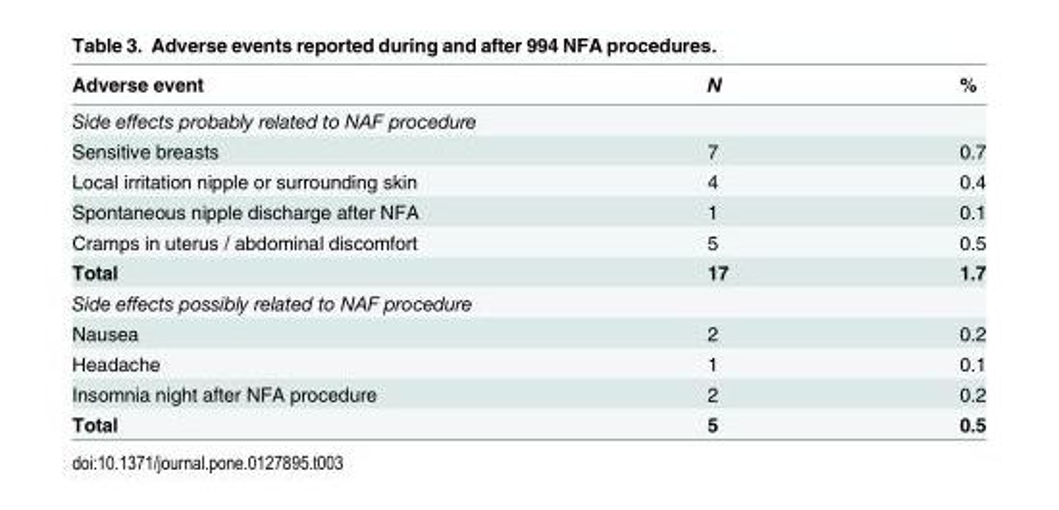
<table><thead><tr><td>Adverse event</td><td>N</td><td>%</td></tr></thead><tbody><tr><td colspan="3">Side effects probably related to NAF procedure</td></tr><tr><td>Sensitive breasts</td><td>7</td><td>0.7</td></tr><tr><td>Local irritation nipple or surrounding skin</td><td>4</td><td>0.4</td></tr><tr><td>Spontaneous nipple discharge after NFA</td><td>1</td><td>0.1</td></tr><tr><td>Cramps in uterus / abdominal discomfort</td><td>5</td><td>0.5</td></tr><tr><td>Total</td><td>17</td><td>1.7</td></tr><tr><td colspan="3">Side effects possibly related to NAF procedure</td></tr><tr><td>Nausea</td><td>2</td><td>0.2</td></tr><tr><td>Headache</td><td>1</td><td>0.1</td></tr><tr><td>Insomnia night after NFA procedure</td><td>2</td><td>0.2</td></tr><tr><td>Total</td><td>5</td><td>0.5</td></tr></tbody></table>